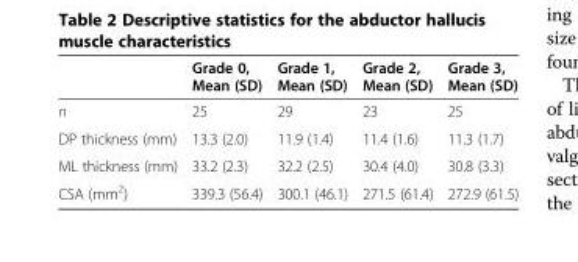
<table><thead><tr><td></td><td>Grade 0, Mean (SD)</td><td>Grade 1, Mean (SD)</td><td>Grade 2, Mean (SD)</td><td>Grade 3, Mean (SD)</td></tr></thead><tbody><tr><td>n</td><td>25</td><td>29</td><td>23</td><td>25</td></tr><tr><td>DP thickness (mm)</td><td>13.3 (2.0)</td><td>11.9 (1.4)</td><td>11.4 (1.6)</td><td>11.3 (1.7)</td></tr><tr><td>ML thickness (mm)</td><td>33.2 (2.3)</td><td>32.2 (2.5)</td><td>30.4 (4.0)</td><td>30.8 (3.3)</td></tr><tr><td>CSA (mm<sup>2</sup>)</td><td>339.3 (56.4)</td><td>300.1 (46.1)</td><td>271.5 (61.4)</td><td>272.9 (61.5)</td></tr></tbody></table>